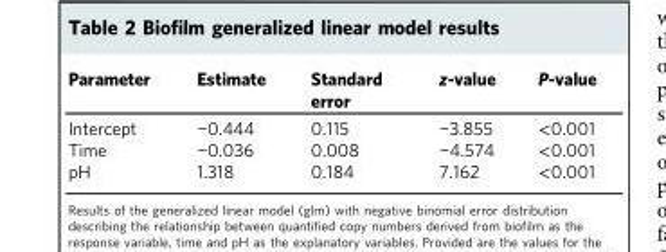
<table><thead><tr><td>Parameter</td><td>Estimate</td><td>Standard error</td><td>z-value</td><td>P-value</td></tr></thead><tbody><tr><td>Intercept</td><td>−0.444</td><td>0.115</td><td>−3.855</td><td>&lt;0.001</td></tr><tr><td>Time</td><td>−0.036</td><td>0.008</td><td>−4.574</td><td>&lt;0.001</td></tr><tr><td>pH</td><td>1.318</td><td>0.184</td><td>7.162</td><td>&lt;0.001</td></tr></tbody></table>